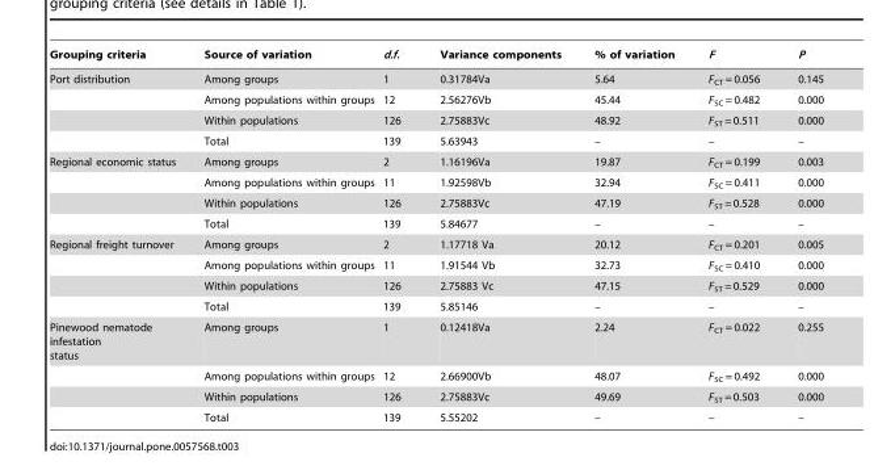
<table><thead><tr><td>Grouping criteria</td><td>Source of variation</td><td>d.f.</td><td>Variance components</td><td>% of variation</td><td>F</td><td>P</td></tr></thead><tbody><tr><td rowspan="4">Port distribution</td><td>Among groups</td><td>1</td><td>0.31784Va</td><td>5.64</td><td>F<sub>CT</sub> = 0.056</td><td>0.145</td></tr><tr><td>Among populations within groups</td><td>12</td><td>2.56276Vb</td><td>45.44</td><td>F<sub>SC</sub> = 0.482</td><td>0.000</td></tr><tr><td>Within populations</td><td>126</td><td>2.75883Vc</td><td>48.92</td><td>F<sub>ST</sub> = 0.511</td><td>0.000</td></tr><tr><td>Total</td><td>139</td><td>5.63943</td><td>–</td><td>–</td><td>–</td></tr><tr><td rowspan="4">Regional economic status</td><td>Among groups</td><td>2</td><td>1.16196Va</td><td>19.87</td><td>F<sub>CT</sub> = 0.199</td><td>0.003</td></tr><tr><td>Among populations within groups</td><td>11</td><td>1.92598Vb</td><td>32.94</td><td>F<sub>SC</sub> = 0.411</td><td>0.000</td></tr><tr><td>Within populations</td><td>126</td><td>2.75883Vc</td><td>47.19</td><td>F<sub>ST</sub> = 0.528</td><td>0.000</td></tr><tr><td>Total</td><td>139</td><td>5.84677</td><td>–</td><td>–</td><td>–</td></tr><tr><td rowspan="4">Regional freight turnover</td><td>Among groups</td><td>2</td><td>1.17718 Va</td><td>20.12</td><td>F<sub>CT</sub> = 0.201</td><td>0.005</td></tr><tr><td>Among populations within groups</td><td>11</td><td>1.91544 Vb</td><td>32.73</td><td>F<sub>SC</sub> = 0.410</td><td>0.000</td></tr><tr><td>Within populations</td><td>126</td><td>2.75883 Vc</td><td>47.15</td><td>F<sub>ST</sub> = 0.529</td><td>0.000</td></tr><tr><td>Total</td><td>139</td><td>5.85146</td><td>–</td><td>–</td><td>–</td></tr><tr><td rowspan="4">Pinewood nematode infestation status</td><td>Among groups</td><td>1</td><td>0.12418Va</td><td>2.24</td><td>F<sub>CT</sub> = 0.022</td><td>0.255</td></tr><tr><td>Among populations within groups</td><td>12</td><td>2.66900Vb</td><td>48.07</td><td>F<sub>SC</sub> = 0.492</td><td>0.000</td></tr><tr><td>Within populations</td><td>126</td><td>2.75883Vc</td><td>49.69</td><td>F<sub>ST</sub> = 0.503</td><td>0.000</td></tr><tr><td>Total</td><td>139</td><td>5.55202</td><td>–</td><td>–</td><td>–</td></tr></tbody></table>